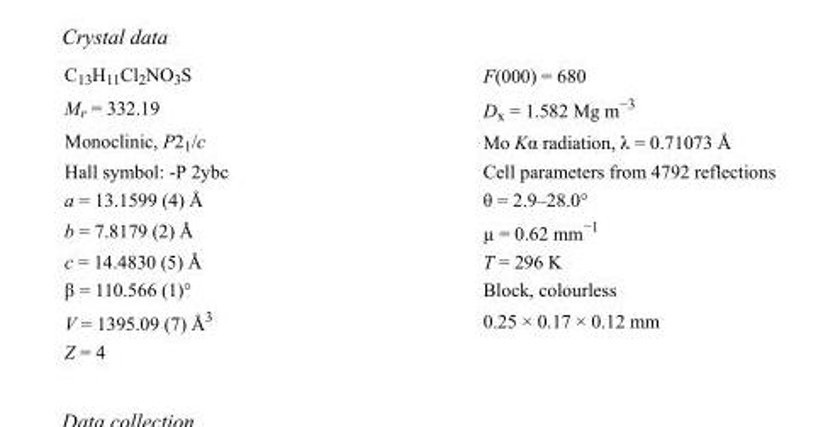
<table><tbody><tr><td>C<sub>13</sub>H<sub>11</sub>Cl<sub>2</sub>NO<sub>3</sub>S</td><td>F(000) = 680</td></tr><tr><td>M<sub>r</sub> = 332.19</td><td>D<sub>x</sub> = 1.582 Mg m<sup>−3</sup></td></tr><tr><td>Monoclinic, P2<sub>1</sub>/c</td><td>Mo Kα radiation, λ = 0.71073 Å</td></tr><tr><td>Hall symbol: -P 2ybc</td><td>Cell parameters from 4792 reflections</td></tr><tr><td>a = 13.1599 (4) Å</td><td>θ = 2.9–28.0°</td></tr><tr><td>b = 7.8179 (2) Å</td><td>µ = 0.62 mm<sup>−1</sup></td></tr><tr><td>c = 14.4830 (5) Å</td><td>T = 296 K</td></tr><tr><td>β = 110.566 (1)°</td><td>Block, colourless</td></tr><tr><td>V = 1395.09 (7) Å<sup>3</sup></td><td>0.25 × 0.17 × 0.12 mm</td></tr><tr><td>Z = 4</td><td></td></tr></tbody></table>